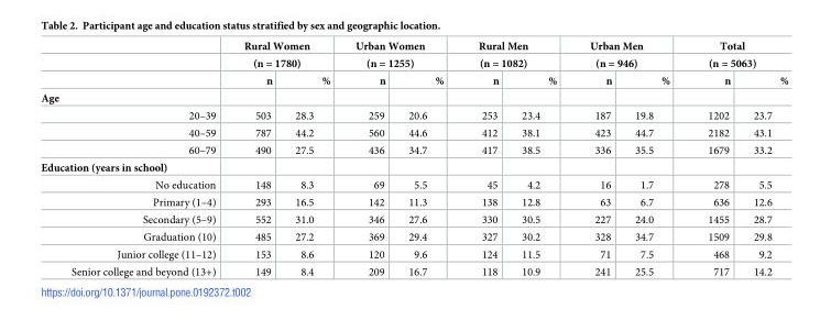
<table><thead><tr><td rowspan="3"></td><td rowspan="2" colspan="2">Rural Women (n = 1780)</td><td rowspan="2" colspan="2">Urban Women (n = 1255)</td><td rowspan="2" colspan="2">Rural Men (n = 1082)</td><td rowspan="2" colspan="2">Urban Men (n = 946)</td><td rowspan="2" colspan="2">Total (n = 5063)</td></tr><tr></tr><tr><td>n</td><td>%</td><td>n</td><td>%</td><td>n</td><td>%</td><td>n</td><td>%</td><td>n</td><td>%</td></tr></thead><tbody><tr><td colspan="11">Age</td></tr><tr><td>20–39</td><td>503</td><td>28.3</td><td>259</td><td>20.6</td><td>253</td><td>23.4</td><td>187</td><td>19.8</td><td>1202</td><td>23.7</td></tr><tr><td>40–59</td><td>787</td><td>44.2</td><td>560</td><td>44.6</td><td>412</td><td>38.1</td><td>423</td><td>44.7</td><td>2182</td><td>43.1</td></tr><tr><td>60–79</td><td>490</td><td>27.5</td><td>436</td><td>34.7</td><td>417</td><td>38.5</td><td>336</td><td>35.5</td><td>1679</td><td>33.2</td></tr><tr><td colspan="11">Education (years in school)</td></tr><tr><td>No education</td><td>148</td><td>8.3</td><td>69</td><td>5.5</td><td>45</td><td>4.2</td><td>16</td><td>1.7</td><td>278</td><td>5.5</td></tr><tr><td>Primary (1–4)</td><td>293</td><td>16.5</td><td>142</td><td>11.3</td><td>138</td><td>12.8</td><td>63</td><td>6.7</td><td>636</td><td>12.6</td></tr><tr><td>Secondary (5–9)</td><td>552</td><td>31.0</td><td>346</td><td>27.6</td><td>330</td><td>30.5</td><td>227</td><td>24.0</td><td>1455</td><td>28.7</td></tr><tr><td>Graduation (10)</td><td>485</td><td>27.2</td><td>369</td><td>29.4</td><td>327</td><td>30.2</td><td>328</td><td>34.7</td><td>1509</td><td>29.8</td></tr><tr><td>Junior college (11–12)</td><td>153</td><td>8.6</td><td>120</td><td>9.6</td><td>124</td><td>11.5</td><td>71</td><td>7.5</td><td>468</td><td>9.2</td></tr><tr><td>Senior college and beyond (13+)</td><td>149</td><td>8.4</td><td>209</td><td>16.7</td><td>118</td><td>10.9</td><td>241</td><td>25.5</td><td>717</td><td>14.2</td></tr></tbody></table>